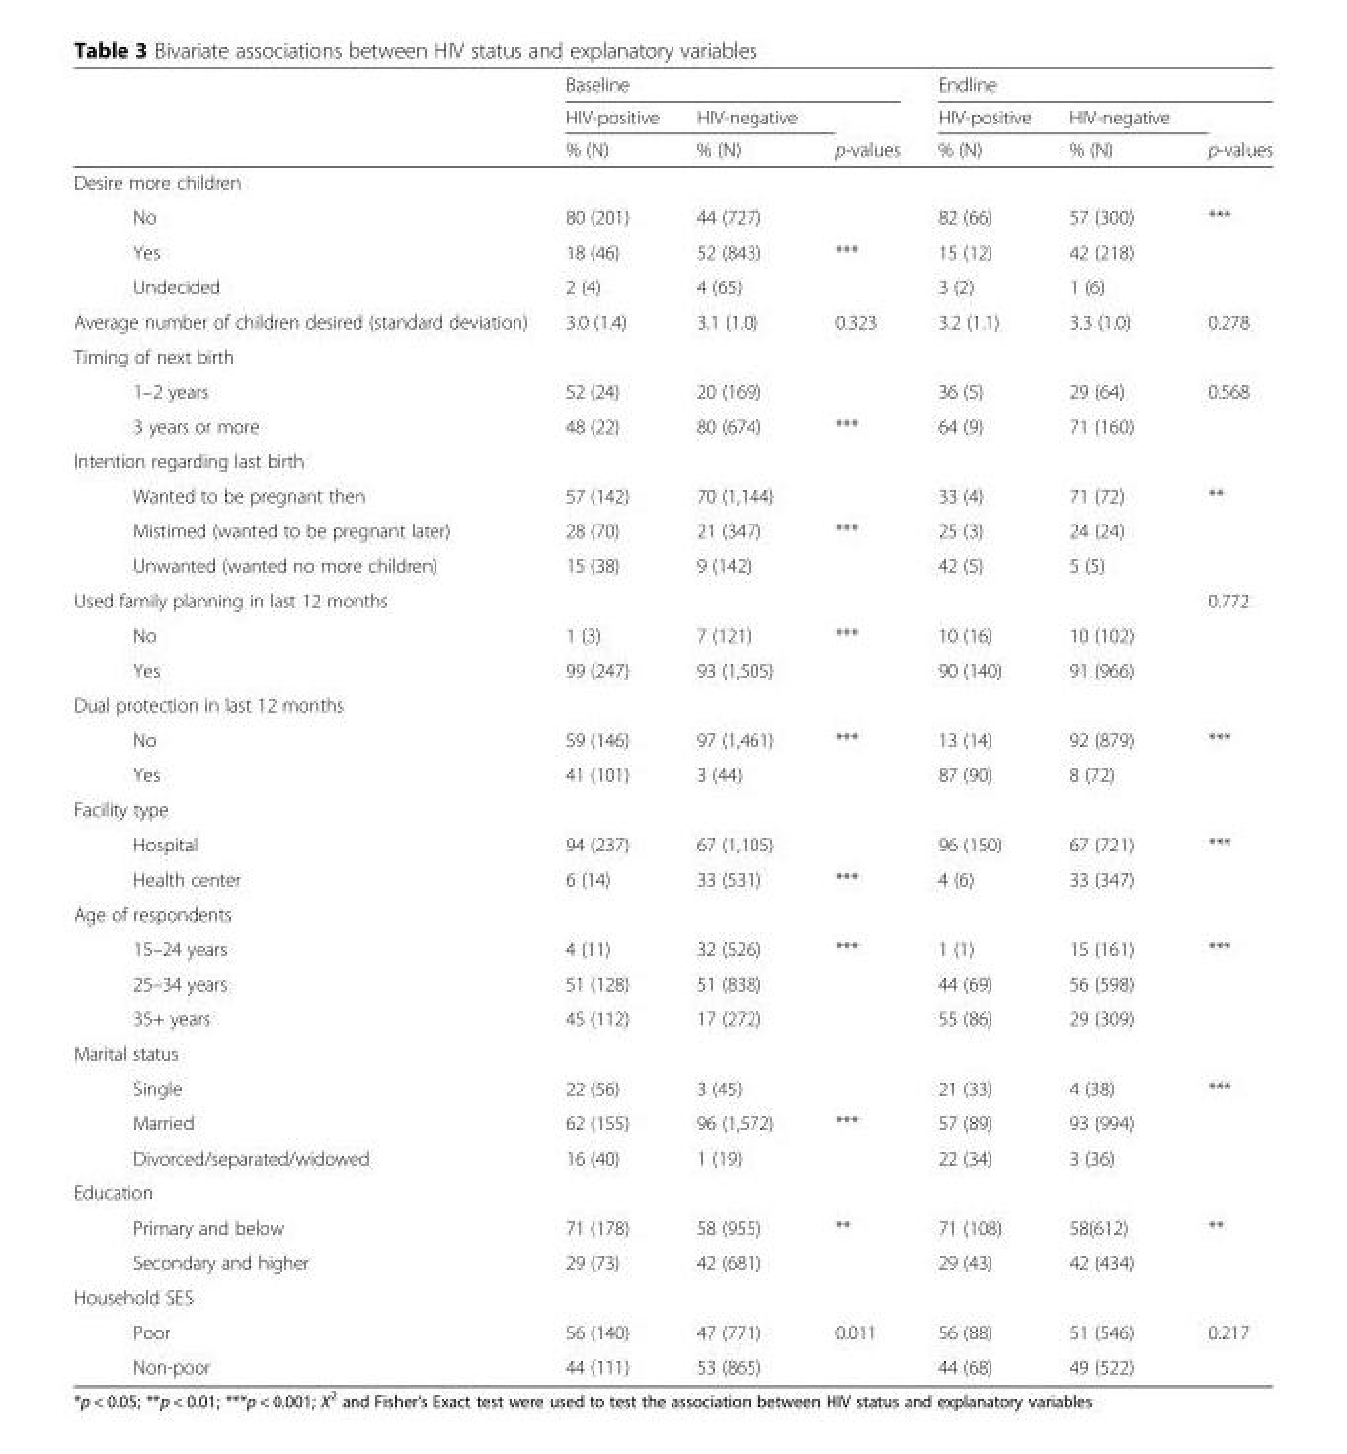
<table><thead><tr><td rowspan="3"></td><td colspan="3">Baseline</td><td colspan="3">Endline</td></tr><tr><td rowspan="2">HIV-positive % (N)</td><td rowspan="2">HIV-negative % (N)</td><td rowspan="2">p-values</td><td rowspan="2">HIV-positive % (N)</td><td rowspan="2">HIV-negative % (N)</td><td rowspan="2">p-values</td></tr><tr></tr></thead><tbody><tr><td colspan="7">Desire more children</td></tr><tr><td>No</td><td>80 (201)</td><td>44 (727)</td><td></td><td>82 (66)</td><td>57 (300)</td><td>***</td></tr><tr><td>Yes</td><td>18 (46)</td><td>52 (843)</td><td>***</td><td>15 (12)</td><td>42 (218)</td><td></td></tr><tr><td>Undecided</td><td>2 (4)</td><td>4 (65)</td><td></td><td>3 (2)</td><td>1 (6)</td><td></td></tr><tr><td>Average number of children desired (standard deviation)</td><td>3.0 (1.4)</td><td>3.1 (1.0)</td><td>0.323</td><td>3.2 (1.1)</td><td>3.3 (1.0)</td><td>0.278</td></tr><tr><td colspan="7">Timing of next birth</td></tr><tr><td>1–2 years</td><td>52 (24)</td><td>20 (169)</td><td></td><td>36 (5)</td><td>29 (64)</td><td>0.568</td></tr><tr><td>3 years or more</td><td>48 (22)</td><td>80 (674)</td><td>***</td><td>64 (9)</td><td>71 (160)</td><td></td></tr><tr><td colspan="7">Intention regarding last birth</td></tr><tr><td>Wanted to be pregnant then</td><td>57 (142)</td><td>70 (1,144)</td><td></td><td>33 (4)</td><td>71 (72)</td><td>**</td></tr><tr><td>Mistimed (wanted to be pregnant later)</td><td>28 (70)</td><td>21 (347)</td><td>***</td><td>25 (3)</td><td>24 (24)</td><td></td></tr><tr><td>Unwanted (wanted no more children)</td><td>15 (38)</td><td>9 (142)</td><td></td><td>42 (5)</td><td>5 (5)</td><td></td></tr><tr><td>Used family planning in last 12 months</td><td></td><td></td><td></td><td></td><td></td><td>0.772</td></tr><tr><td>No</td><td>1 (3)</td><td>7 (121)</td><td>***</td><td>10 (16)</td><td>10 (102)</td><td></td></tr><tr><td>Yes</td><td>99 (247)</td><td>93 (1,505)</td><td></td><td>90 (140)</td><td>91 (966)</td><td></td></tr><tr><td colspan="7">Dual protection in last 12 months</td></tr><tr><td>No</td><td>59 (146)</td><td>97 (1,461)</td><td>***</td><td>13 (14)</td><td>92 (879)</td><td>***</td></tr><tr><td>Yes</td><td>41 (101)</td><td>3 (44)</td><td></td><td>87 (90)</td><td>8 (72)</td><td></td></tr><tr><td colspan="7">Facility type</td></tr><tr><td>Hospital</td><td>94 (237)</td><td>67 (1,105)</td><td></td><td>96 (150)</td><td>67 (721)</td><td>***</td></tr><tr><td>Health center</td><td>6 (14)</td><td>33 (531)</td><td>***</td><td>4 (6)</td><td>33 (347)</td><td></td></tr><tr><td colspan="7">Age of respondents</td></tr><tr><td>15–24 years</td><td>4 (11)</td><td>32 (526)</td><td>***</td><td>1 (1)</td><td>15 (161)</td><td>***</td></tr><tr><td>25–34 years</td><td>51 (128)</td><td>51 (838)</td><td></td><td>44 (69)</td><td>56 (598)</td><td></td></tr><tr><td>35+ years</td><td>45 (112)</td><td>17 (272)</td><td></td><td>55 (86)</td><td>29 (309)</td><td></td></tr><tr><td colspan="7">Marital status</td></tr><tr><td>Single</td><td>22 (56)</td><td>3 (45)</td><td></td><td>21 (33)</td><td>4 (38)</td><td>***</td></tr><tr><td>Married</td><td>62 (155)</td><td>96 (1,572)</td><td>***</td><td>57 (89)</td><td>93 (994)</td><td></td></tr><tr><td>Divorced/separated/widowed</td><td>16 (40)</td><td>1 (19)</td><td></td><td>22 (34)</td><td>3 (36)</td><td></td></tr><tr><td colspan="7">Education</td></tr><tr><td>Primary and below</td><td>71 (178)</td><td>58 (955)</td><td>**</td><td>71 (108)</td><td>58(612)</td><td>**</td></tr><tr><td>Secondary and higher</td><td>29 (73)</td><td>42 (681)</td><td></td><td>29 (43)</td><td>42 (434)</td><td></td></tr><tr><td colspan="7">Household SES</td></tr><tr><td>Poor</td><td>56 (140)</td><td>47 (771)</td><td>0.011</td><td>56 (88)</td><td>51 (546)</td><td>0.217</td></tr><tr><td>Non-poor</td><td>44 (111)</td><td>53 (865)</td><td></td><td>44 (68)</td><td>49 (522)</td><td></td></tr></tbody></table>